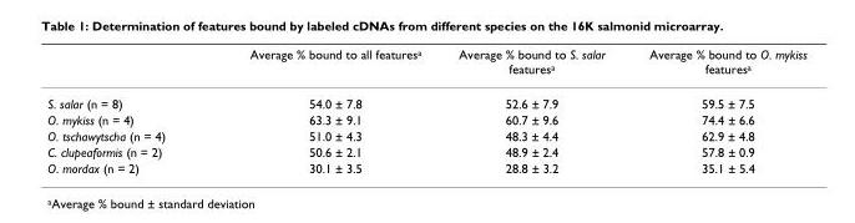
<table><thead><tr><td></td><td>Average % bound to all features<sup>a</sup></td><td>Average % bound to S. salar features<sup>a</sup></td><td>Average % bound to O. mykiss features<sup>a</sup></td></tr></thead><tbody><tr><td>S. salar (n = 8)</td><td>54.0 ± 7.8</td><td>52.6 ± 7.9</td><td>59.5 ± 7.5</td></tr><tr><td>O. mykiss (n = 4)</td><td>63.3 ± 9.1</td><td>60.7 ± 9.6</td><td>74.4 ± 6.6</td></tr><tr><td>O. tschawytscha (n = 4)</td><td>51.0 ± 4.3</td><td>48.3 ± 4.4</td><td>62.9 ± 4.8</td></tr><tr><td>C. clupeaformis (n = 2)</td><td>50.6 ± 2.1</td><td>48.9 ± 2.4</td><td>57.8 ± 0.9</td></tr><tr><td>O. mordax (n = 2)</td><td>30.1 ± 3.5</td><td>28.8 ± 3.2</td><td>35.1 ± 5.4</td></tr></tbody></table>